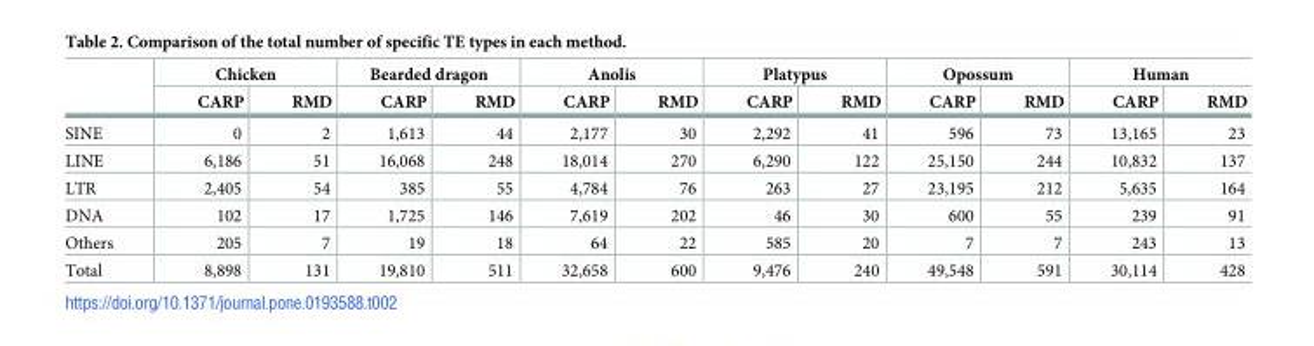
<table><thead><tr><td rowspan="2"></td><td colspan="2">Chicken</td><td colspan="2">Bearded dragon</td><td colspan="2">Anolis</td><td colspan="2">Platypus</td><td colspan="2">Opossum</td><td colspan="2">Human</td></tr><tr><td>CARP</td><td>RMD</td><td>CARP</td><td>RMD</td><td>CARP</td><td>RMD</td><td>CARP</td><td>RMD</td><td>CARP</td><td>RMD</td><td>CARP</td><td>RMD</td></tr></thead><tbody><tr><td>SINE</td><td>0</td><td>2</td><td>1,613</td><td>44</td><td>2,177</td><td>30</td><td>2,292</td><td>41</td><td>596</td><td>73</td><td>13,165</td><td>23</td></tr><tr><td>LINE</td><td>6,186</td><td>51</td><td>16,068</td><td>248</td><td>18,014</td><td>270</td><td>6,290</td><td>122</td><td>25,150</td><td>244</td><td>10,832</td><td>137</td></tr><tr><td>LTR</td><td>2,405</td><td>54</td><td>385</td><td>55</td><td>4,784</td><td>76</td><td>263</td><td>27</td><td>23,195</td><td>212</td><td>5,635</td><td>164</td></tr><tr><td>DNA</td><td>102</td><td>17</td><td>1,725</td><td>146</td><td>7,619</td><td>202</td><td>46</td><td>30</td><td>600</td><td>55</td><td>239</td><td>91</td></tr><tr><td>Others</td><td>205</td><td>7</td><td>19</td><td>18</td><td>64</td><td>22</td><td>585</td><td>20</td><td>7</td><td>7</td><td>243</td><td>13</td></tr><tr><td>Total</td><td>8,898</td><td>131</td><td>19,810</td><td>511</td><td>32,658</td><td>600</td><td>9,476</td><td>240</td><td>49,548</td><td>591</td><td>30,114</td><td>428</td></tr></tbody></table>